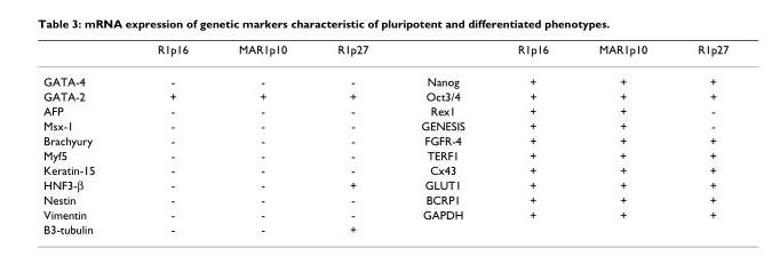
<table><thead><tr><td></td><td>R1p16</td><td>MAR1p10</td><td>R1p27</td><td></td><td>R1p16</td><td>MAR1p10</td><td>R1p27</td></tr></thead><tbody><tr><td>GATA-4</td><td>-</td><td>-</td><td>-</td><td>Nanog</td><td>+</td><td>+</td><td>+</td></tr><tr><td>GATA-2</td><td>+</td><td>+</td><td>+</td><td>Oct3/4</td><td>+</td><td>+</td><td>+</td></tr><tr><td>AFP</td><td>-</td><td>-</td><td>-</td><td>Rex1</td><td>+</td><td>+</td><td>-</td></tr><tr><td>Msx-1</td><td>-</td><td>-</td><td>-</td><td>GENESIS</td><td>+</td><td>+</td><td>-</td></tr><tr><td>Brachyury</td><td>-</td><td>-</td><td>-</td><td>FGFR-4</td><td>+</td><td>+</td><td>+</td></tr><tr><td>Myf5</td><td>-</td><td>-</td><td>-</td><td>TERF1</td><td>+</td><td>+</td><td>+</td></tr><tr><td>Keratin-15</td><td>-</td><td>-</td><td>-</td><td>Cx43</td><td>+</td><td>+</td><td>+</td></tr><tr><td>HNF3-β</td><td>-</td><td>-</td><td>+</td><td>GLUT1</td><td>+</td><td>+</td><td>+</td></tr><tr><td>Nestin</td><td>-</td><td>-</td><td>-</td><td>BCRP1</td><td>+</td><td>+</td><td>+</td></tr><tr><td>Vimentin</td><td>-</td><td>-</td><td>-</td><td>GAPDH</td><td>+</td><td>+</td><td>+</td></tr><tr><td>B3-tubulin</td><td>-</td><td>-</td><td>+</td><td></td><td></td><td></td><td></td></tr></tbody></table>